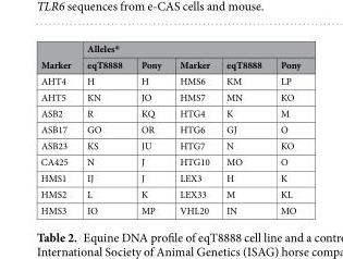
<table><thead><tr><td rowspan="2">Marker</td><td colspan="5">Alleles*</td></tr><tr><td>eqT8888</td><td>Pony</td><td>Marker</td><td>eqT8888</td><td>Pony</td></tr></thead><tbody><tr><td>AHT4</td><td>H</td><td>H</td><td>HMS6</td><td>KM</td><td>LP</td></tr><tr><td>AHT5</td><td>KN</td><td>JO</td><td>HMS7</td><td>MN</td><td>KO</td></tr><tr><td>ASB2</td><td>R</td><td>KQ</td><td>HTG4</td><td>K</td><td>M</td></tr><tr><td>ASB17</td><td>GO</td><td>OR</td><td>HTG6</td><td>GJ</td><td>O</td></tr><tr><td>ASB23</td><td>KS</td><td>JU</td><td>HTG7</td><td>N</td><td>KO</td></tr><tr><td>CA425</td><td>N</td><td>J</td><td>HTG10</td><td>MO</td><td>O</td></tr><tr><td>HMS1</td><td>IJ</td><td>J</td><td>LEX3</td><td>H</td><td>K</td></tr><tr><td>HMS2</td><td>L</td><td>K</td><td>LEX33</td><td>M</td><td>KL</td></tr><tr><td>HMS3</td><td>IO</td><td>MP</td><td>VHL20</td><td>IN</td><td>MO</td></tr></tbody></table>